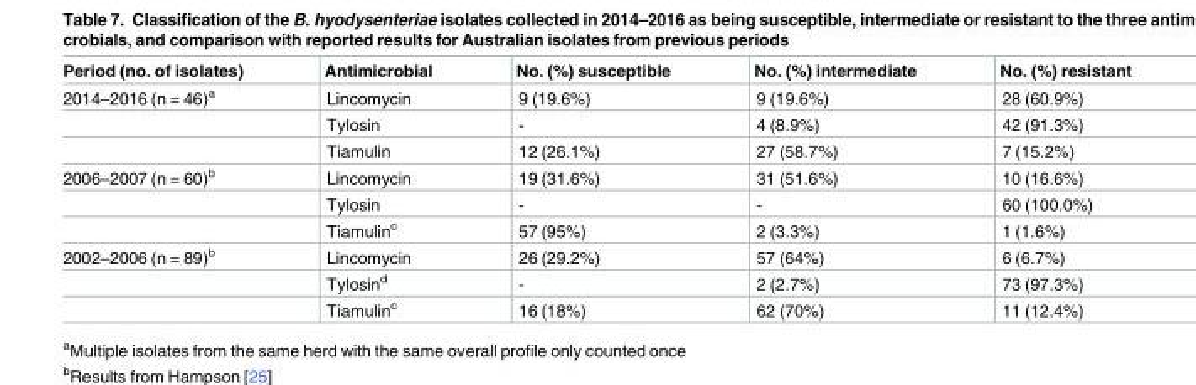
<table><thead><tr><td>Period (no. of isolates)</td><td>Antimicrobial</td><td>No. (%) susceptible</td><td>No. (%) intermediate</td><td>No. (%) resistant</td></tr></thead><tbody><tr><td rowspan="3">2014–2016 (n = 46)<sup>a</sup></td><td>Lincomycin</td><td>9 (19.6%)</td><td>9 (19.6%)</td><td>28 (60.9%)</td></tr><tr><td>Tylosin</td><td>-</td><td>4 (8.9%)</td><td>42 (91.3%)</td></tr><tr><td>Tiamulin</td><td>12 (26.1%)</td><td>27 (58.7%)</td><td>7 (15.2%)</td></tr><tr><td rowspan="3">2006–2007 (n = 60)<sup>b</sup></td><td>Lincomycin</td><td>19 (31.6%)</td><td>31 (51.6%)</td><td>10 (16.6%)</td></tr><tr><td>Tylosin</td><td>-</td><td>-</td><td>60 (100.0%)</td></tr><tr><td>Tiamulin<sup>c</sup></td><td>57 (95%)</td><td>2 (3.3%)</td><td>1 (1.6%)</td></tr><tr><td rowspan="3">2002–2006 (n = 89)<sup>b</sup></td><td>Lincomycin</td><td>26 (29.2%)</td><td>57 (64%)</td><td>6 (6.7%)</td></tr><tr><td>Tylosin<sup>d</sup></td><td>-</td><td>2 (2.7%)</td><td>73 (97.3%)</td></tr><tr><td>Tiamulin<sup>c</sup></td><td>16 (18%)</td><td>62 (70%)</td><td>11 (12.4%)</td></tr></tbody></table>